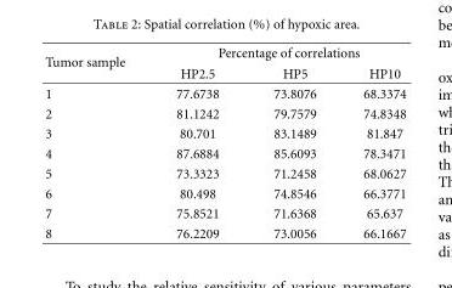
<table><thead><tr><td rowspan="2">Tumor sample</td><td colspan="3">Percentage of correlations</td></tr><tr><td>HP2.5</td><td>HP5</td><td>HP10</td></tr></thead><tbody><tr><td>1</td><td>77.6738</td><td>73.8076</td><td>68.3374</td></tr><tr><td>2</td><td>81.1242</td><td>79.7579</td><td>74.8348</td></tr><tr><td>3</td><td>80.701</td><td>83.1489</td><td>81.847</td></tr><tr><td>4</td><td>87.6884</td><td>85.6093</td><td>78.3471</td></tr><tr><td>5</td><td>73.3323</td><td>71.2458</td><td>68.0627</td></tr><tr><td>6</td><td>80.498</td><td>74.8546</td><td>66.3771</td></tr><tr><td>7</td><td>75.8521</td><td>71.6368</td><td>65.637</td></tr><tr><td>8</td><td>76.2209</td><td>73.0056</td><td>66.1667</td></tr></tbody></table>